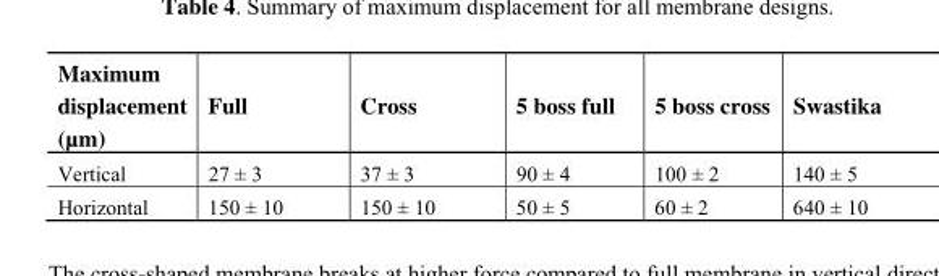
<table><thead><tr><td>Maximum displacement (µm)</td><td>Full</td><td>Cross</td><td>5 boss full</td><td>5 boss cross</td><td>Swastika</td></tr></thead><tbody><tr><td>Vertical</td><td>27 ± 3</td><td>37 ± 3</td><td>90 ± 4</td><td>100 ± 2</td><td>140 ± 5</td></tr><tr><td>Horizontal</td><td>150 ± 10</td><td>150 ± 10</td><td>50 ± 5</td><td>60 ± 2</td><td>640 ± 10</td></tr></tbody></table>